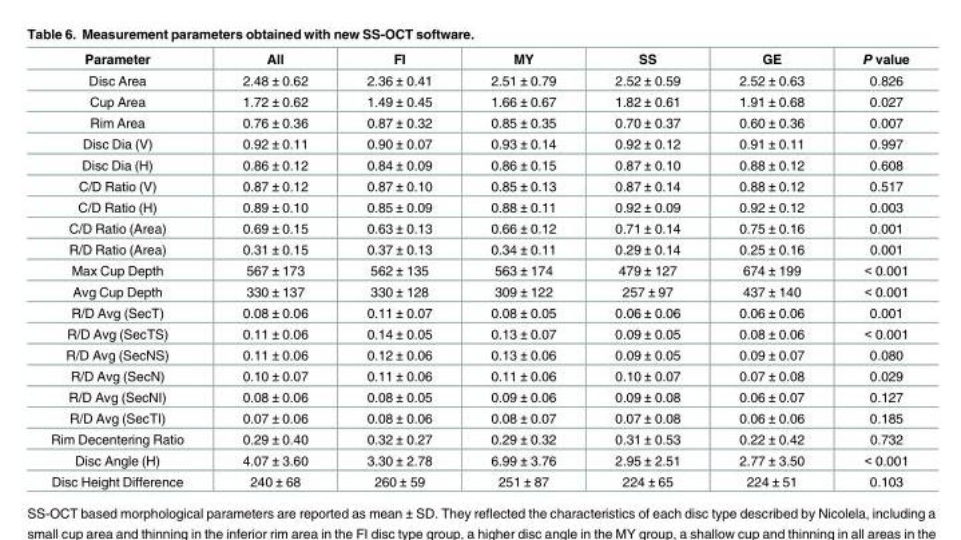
<table><thead><tr><td>Parameter</td><td>All</td><td>FI</td><td>MY</td><td>SS</td><td>GE</td><td>P value</td></tr></thead><tbody><tr><td>Disc Area</td><td>2.48 ± 0.62</td><td>2.36 ± 0.41</td><td>2.51 ± 0.79</td><td>2.52 ± 0.59</td><td>2.52 ± 0.63</td><td>0.826</td></tr><tr><td>Cup Area</td><td>1.72 ± 0.62</td><td>1.49 ± 0.45</td><td>1.66 ± 0.67</td><td>1.82 ± 0.61</td><td>1.91 ± 0.68</td><td>0.027</td></tr><tr><td>Rim Area</td><td>0.76 ± 0.36</td><td>0.87 ± 0.32</td><td>0.85 ± 0.35</td><td>0.70 ± 0.37</td><td>0.60 ± 0.36</td><td>0.007</td></tr><tr><td>Disc Dia (V)</td><td>0.92 ± 0.11</td><td>0.90 ± 0.07</td><td>0.93 ± 0.14</td><td>0.92 ± 0.12</td><td>0.91 ± 0.11</td><td>0.997</td></tr><tr><td>Disc Dia (H)</td><td>0.86 ± 0.12</td><td>0.84 ± 0.09</td><td>0.86 ± 0.15</td><td>0.87 ± 0.10</td><td>0.88 ± 0.12</td><td>0.608</td></tr><tr><td>C/D Ratio (V)</td><td>0.87 ± 0.12</td><td>0.87 ± 0.10</td><td>0.85 ± 0.13</td><td>0.87 ± 0.14</td><td>0.88 ± 0.12</td><td>0.517</td></tr><tr><td>C/D Ratio (H)</td><td>0.89 ± 0.10</td><td>0.85 ± 0.09</td><td>0.88 ± 0.11</td><td>0.92 ± 0.09</td><td>0.92 ± 0.12</td><td>0.003</td></tr><tr><td>C/D Ratio (Area)</td><td>0.69 ± 0.15</td><td>0.63 ± 0.13</td><td>0.66 ± 0.12</td><td>0.71 ± 0.14</td><td>0.75 ± 0.16</td><td>0.001</td></tr><tr><td>R/D Ratio (Area)</td><td>0.31 ± 0.15</td><td>0.37 ± 0.13</td><td>0.34 ± 0.11</td><td>0.29 ± 0.14</td><td>0.25 ± 0.16</td><td>0.001</td></tr><tr><td>Max Cup Depth</td><td>567 ± 173</td><td>562 ± 135</td><td>563 ± 174</td><td>479 ± 127</td><td>674 ± 199</td><td>&lt; 0.001</td></tr><tr><td>Avg Cup Depth</td><td>330 ± 137</td><td>330 ± 128</td><td>309 ± 122</td><td>257 ± 97</td><td>437 ± 140</td><td>&lt; 0.001</td></tr><tr><td>R/D Avg (SecT)</td><td>0.08 ± 0.06</td><td>0.11 ± 0.07</td><td>0.08 ± 0.05</td><td>0.06 ± 0.06</td><td>0.06 ± 0.06</td><td>0.001</td></tr><tr><td>R/D Avg (SecTS)</td><td>0.11 ± 0.06</td><td>0.14 ± 0.05</td><td>0.13 ± 0.07</td><td>0.09 ± 0.05</td><td>0.08 ± 0.06</td><td>&lt; 0.001</td></tr><tr><td>R/D Avg (SecNS)</td><td>0.11 ± 0.06</td><td>0.12 ± 0.06</td><td>0.13 ± 0.06</td><td>0.09 ± 0.05</td><td>0.09 ± 0.07</td><td>0.080</td></tr><tr><td>R/D Avg (SecN)</td><td>0.10 ± 0.07</td><td>0.11 ± 0.06</td><td>0.11 ± 0.06</td><td>0.10 ± 0.07</td><td>0.07 ± 0.08</td><td>0.029</td></tr><tr><td>R/D Avg (SecNI)</td><td>0.08 ± 0.06</td><td>0.08 ± 0.05</td><td>0.09 ± 0.06</td><td>0.09 ± 0.08</td><td>0.06 ± 0.07</td><td>0.127</td></tr><tr><td>R/D Avg (SecTI)</td><td>0.07 ± 0.06</td><td>0.08 ± 0.06</td><td>0.08 ± 0.07</td><td>0.07 ± 0.08</td><td>0.06 ± 0.06</td><td>0.185</td></tr><tr><td>Rim Decentering Ratio</td><td>0.29 ± 0.40</td><td>0.32 ± 0.27</td><td>0.29 ± 0.32</td><td>0.31 ± 0.53</td><td>0.22 ± 0.42</td><td>0.732</td></tr><tr><td>Disc Angle (H)</td><td>4.07 ± 3.60</td><td>3.30 ± 2.78</td><td>6.99 ± 3.76</td><td>2.95 ± 2.51</td><td>2.77 ± 3.50</td><td>&lt; 0.001</td></tr><tr><td>Disc Height Difference</td><td>240 ± 68</td><td>260 ± 59</td><td>251 ± 87</td><td>224 ± 65</td><td>224 ± 51</td><td>0.103</td></tr></tbody></table>